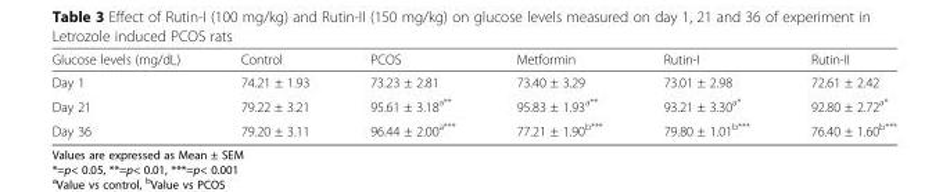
<table><thead><tr><td>Glucose levels (mg/dL)</td><td>Control</td><td>PCOS</td><td>Metformin</td><td>Rutin-I</td><td>Rutin-II</td></tr></thead><tbody><tr><td>Day 1</td><td>74.21 ± 1.93</td><td>73.23 ± 2.81</td><td>73.40 ± 3.29</td><td>73.01 ± 2.98</td><td>72.61 ± 2.42</td></tr><tr><td>Day 21</td><td>79.22 ± 3.21</td><td>95.61 ± 3.18<sup>a**</sup></td><td>95.83 ± 1.93<sup>a**</sup></td><td>93.21 ± 3.30<sup>a*</sup></td><td>92.80 ± 2.72<sup>a*</sup></td></tr><tr><td>Day 36</td><td>79.20 ± 3.11</td><td>96.44 ± 2.00<sup>a***</sup></td><td>77.21 ± 1.90<sup>b***</sup></td><td>79.80 ± 1.01<sup>b***</sup></td><td>76.40 ± 1.60<sup>b***</sup></td></tr></tbody></table>